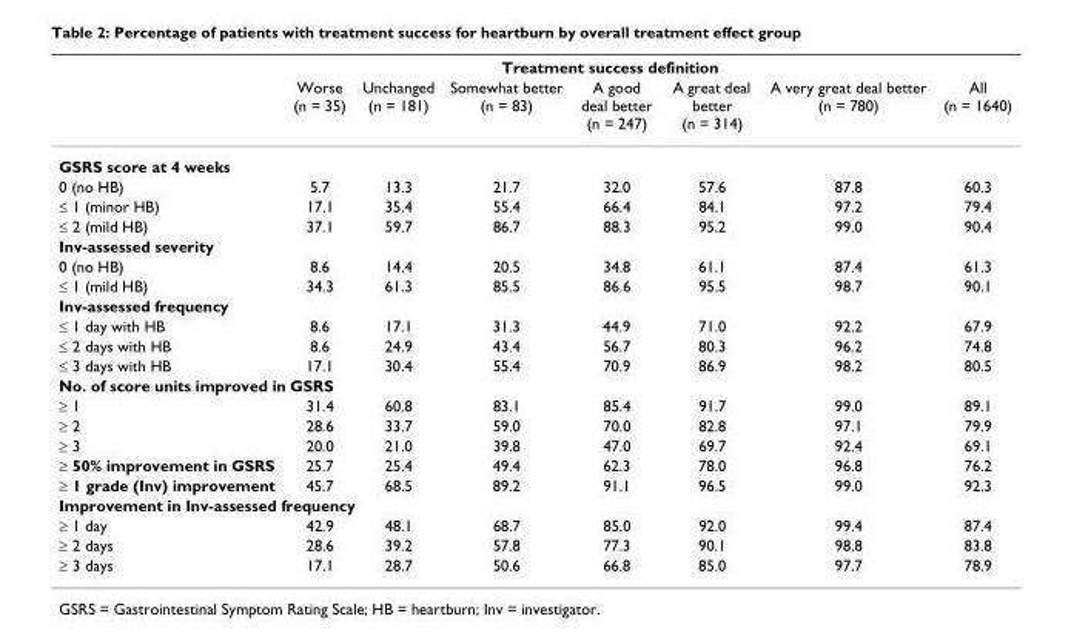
<table><thead><tr><td rowspan="2"></td><td colspan="6">Treatment success definition</td><td rowspan="2">All (n = 1640)</td></tr><tr><td>Worse (n = 35)</td><td>Unchanged (n = 181)</td><td>Somewhat better (n = 83)</td><td>A good deal better (n = 247)</td><td>A great deal better (n = 314)</td><td>A very great deal better (n = 780)</td></tr></thead><tbody><tr><td colspan="8">GSRS score at 4 weeks</td></tr><tr><td>0 (no HB)</td><td>5.7</td><td>13.3</td><td>21.7</td><td>32.0</td><td>57.6</td><td>87.8</td><td>60.3</td></tr><tr><td>≤ 1 (minor HB)</td><td>17.1</td><td>35.4</td><td>55.4</td><td>66.4</td><td>84.1</td><td>97.2</td><td>79.4</td></tr><tr><td>≤ 2 (mild HB)</td><td>37.1</td><td>59.7</td><td>86.7</td><td>88.3</td><td>95.2</td><td>99.0</td><td>90.4</td></tr><tr><td colspan="8">Inv-assessed severity</td></tr><tr><td>0 (no HB)</td><td>8.6</td><td>14.4</td><td>20.5</td><td>34.8</td><td>61.1</td><td>87.4</td><td>61.3</td></tr><tr><td>≤ 1 (mild HB)</td><td>34.3</td><td>61.3</td><td>85.5</td><td>86.6</td><td>95.5</td><td>98.7</td><td>90.1</td></tr><tr><td colspan="8">Inv-assessed frequency</td></tr><tr><td>≤ 1 day with HB</td><td>8.6</td><td>17.1</td><td>31.3</td><td>44.9</td><td>71.0</td><td>92.2</td><td>67.9</td></tr><tr><td>≤ 2 days with HB</td><td>8.6</td><td>24.9</td><td>43.4</td><td>56.7</td><td>80.3</td><td>96.2</td><td>74.8</td></tr><tr><td>≤ 3 days with HB</td><td>17.1</td><td>30.4</td><td>55.4</td><td>70.9</td><td>86.9</td><td>98.2</td><td>80.5</td></tr><tr><td colspan="8">No. of score units improved in GSRS</td></tr><tr><td>≥ 1</td><td>31.4</td><td>60.8</td><td>83.1</td><td>85.4</td><td>91.7</td><td>99.0</td><td>89.1</td></tr><tr><td>≥ 2</td><td>28.6</td><td>33.7</td><td>59.0</td><td>70.0</td><td>82.8</td><td>97.1</td><td>79.9</td></tr><tr><td>≥ 3</td><td>20.0</td><td>21.0</td><td>39.8</td><td>47.0</td><td>69.7</td><td>92.4</td><td>69.1</td></tr><tr><td>≥ 50% improvement in GSRS</td><td>25.7</td><td>25.4</td><td>49.4</td><td>62.3</td><td>78.0</td><td>96.8</td><td>76.2</td></tr><tr><td>≥ 1 grade (Inv) improvement</td><td>45.7</td><td>68.5</td><td>89.2</td><td>91.1</td><td>96.5</td><td>99.0</td><td>92.3</td></tr><tr><td colspan="8">Improvement in Inv-assessed frequency</td></tr><tr><td>≥ 1 day</td><td>42.9</td><td>48.1</td><td>68.7</td><td>85.0</td><td>92.0</td><td>99.4</td><td>87.4</td></tr><tr><td>≥ 2 days</td><td>28.6</td><td>39.2</td><td>57.8</td><td>77.3</td><td>90.1</td><td>98.8</td><td>83.8</td></tr><tr><td>≥ 3 days</td><td>17.1</td><td>28.7</td><td>50.6</td><td>66.8</td><td>85.0</td><td>97.7</td><td>78.9</td></tr></tbody></table>